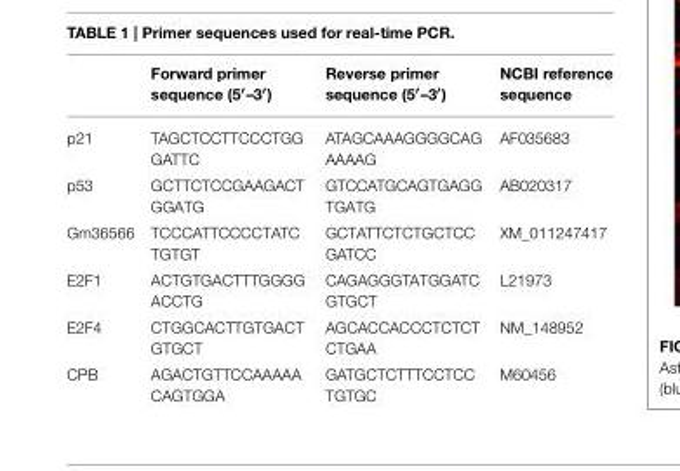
<table><thead><tr><td></td><td>Forward primer sequence (5′–3′)</td><td>Reverse primer sequence (5′–3′)</td><td>NCBI reference sequence</td></tr></thead><tbody><tr><td>p21</td><td>TAGCTCCTTCCCTGG GATTC</td><td>ATAGCAAAGGGGCAG AAAAG</td><td>AF035683</td></tr><tr><td>p53</td><td>GCTTCTCCGAAGACT GGATG</td><td>GTCCATGCAGTGAGG TGATG</td><td>AB020317</td></tr><tr><td>Gm36566</td><td>TCCCATTCCCCTATC TGTGT</td><td>GCTATTCTCTGCTCC GATCC</td><td>XM_011247417</td></tr><tr><td>E2F1</td><td>ACTGTGACTTTGGGG ACCTG</td><td>CAGAGGGTATGGATC GTGCT</td><td>L21973</td></tr><tr><td>E2F4</td><td>CTGGCACTTGTGACT GTGCT</td><td>AGCACCACCCTCTCT CTGAA</td><td>NM_148952</td></tr><tr><td>CPB</td><td>AGACTGTTCCAAAAA CAGTGGA</td><td>GATGCTCTTTCCTCC TGTGC</td><td>M60456</td></tr></tbody></table>